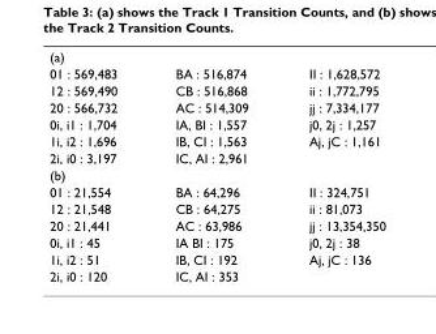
<table><tbody><tr><td colspan="3">(a)</td></tr><tr><td>01 : 569,483</td><td>BA : 516,874</td><td>II : 1,628,572</td></tr><tr><td>12 : 569,490</td><td>CB : 516,868</td><td>ii : 1,772,795</td></tr><tr><td>20 : 566,732</td><td>AC : 514,309</td><td>jj : 7,334,177</td></tr><tr><td>0i, i1 : 1,704</td><td>IA, BI : 1,557</td><td>j0, 2j : 1,257</td></tr><tr><td>1i, i2 : 1,696</td><td>IB, CI : 1,563</td><td>Aj, jC : 1,161</td></tr><tr><td>2i, i0 : 3,197</td><td>IC, AI : 2,961</td><td></td></tr><tr><td colspan="3">(b)</td></tr><tr><td>01 : 21,554</td><td>BA : 64,296</td><td>II : 324,751</td></tr><tr><td>12 : 21,548</td><td>CB : 64,275</td><td>ii : 81,073</td></tr><tr><td>20 : 21,441</td><td>AC : 63,986</td><td>jj : 13,354,350</td></tr><tr><td>0i, i1 : 45</td><td>IA BI : 175</td><td>j0, 2j : 38</td></tr><tr><td>1i, i2 : 51</td><td>IB, CI : 192</td><td>Aj, jC : 136</td></tr><tr><td>2i, i0 : 120</td><td>IC, AI : 353</td><td></td></tr></tbody></table>